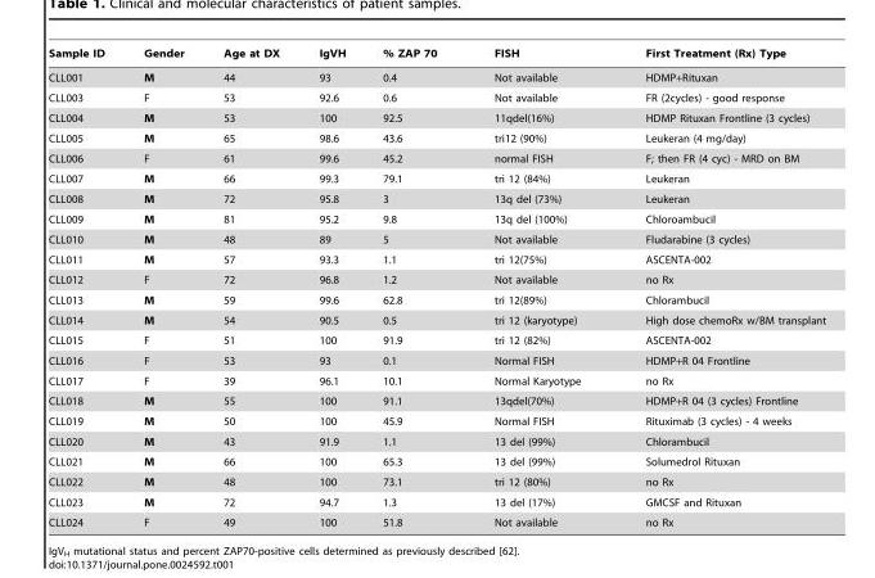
<table><thead><tr><td>Sample ID</td><td>Gender</td><td>Age at DX</td><td>IgVH</td><td>% ZAP 70</td><td>FISH</td><td>First Treatment (Rx) Type</td></tr></thead><tbody><tr><td>CLL001</td><td>M</td><td>44</td><td>93</td><td>0.4</td><td>Not available</td><td>HDMP+Rituxan</td></tr><tr><td>CLL003</td><td>F</td><td>53</td><td>92.6</td><td>0.6</td><td>Not available</td><td>FR (2cycles) - good response</td></tr><tr><td>CLL004</td><td>M</td><td>53</td><td>100</td><td>92.5</td><td>11qdel(16%)</td><td>HDMP Rituxan Frontline (3 cycles)</td></tr><tr><td>CLL005</td><td>M</td><td>65</td><td>98.6</td><td>43.6</td><td>tri12 (90%)</td><td>Leukeran (4 mg/day)</td></tr><tr><td>CLL006</td><td>F</td><td>61</td><td>99.6</td><td>45.2</td><td>normal FISH</td><td>F; then FR (4 cyc) - MRD on BM</td></tr><tr><td>CLL007</td><td>M</td><td>66</td><td>99.3</td><td>79.1</td><td>tri 12 (84%)</td><td>Leukeran</td></tr><tr><td>CLL008</td><td>M</td><td>72</td><td>95.8</td><td>3</td><td>13q del (73%)</td><td>Leukeran</td></tr><tr><td>CLL009</td><td>M</td><td>81</td><td>95.2</td><td>9.8</td><td>13q del (100%)</td><td>Chloroambucil</td></tr><tr><td>CLL010</td><td>M</td><td>48</td><td>89</td><td>5</td><td>Not available</td><td>Fludarabine (3 cycles)</td></tr><tr><td>CLL011</td><td>M</td><td>57</td><td>93.3</td><td>1.1</td><td>tri 12(75%)</td><td>ASCENTA-002</td></tr><tr><td>CLL012</td><td>F</td><td>72</td><td>96.8</td><td>1.2</td><td>Not available</td><td>no Rx</td></tr><tr><td>CLL013</td><td>M</td><td>59</td><td>99.6</td><td>62.8</td><td>tri 12(89%)</td><td>Chlorambucil</td></tr><tr><td>CLL014</td><td>M</td><td>54</td><td>90.5</td><td>0.5</td><td>tri 12 (karyotype)</td><td>High dose chemoRx w/BM transplant</td></tr><tr><td>CLL015</td><td>F</td><td>51</td><td>100</td><td>91.9</td><td>tri 12 (82%)</td><td>ASCENTA-002</td></tr><tr><td>CLL016</td><td>F</td><td>53</td><td>93</td><td>0.1</td><td>Normal FISH</td><td>HDMP+R 04 Frontline</td></tr><tr><td>CLL017</td><td>F</td><td>39</td><td>96.1</td><td>10.1</td><td>Normal Karyotype</td><td>no Rx</td></tr><tr><td>CLL018</td><td>M</td><td>55</td><td>100</td><td>91.1</td><td>13qdel(70%)</td><td>HDMP+R 04 (3 cycles) Frontline</td></tr><tr><td>CLL019</td><td>M</td><td>50</td><td>100</td><td>45.9</td><td>Normal FISH</td><td>Rituximab (3 cycles) - 4 weeks</td></tr><tr><td>CLL020</td><td>M</td><td>43</td><td>91.9</td><td>1.1</td><td>13 del (99%)</td><td>Chlorambucil</td></tr><tr><td>CLL021</td><td>M</td><td>66</td><td>100</td><td>65.3</td><td>13 del (99%)</td><td>Solumedrol Rituxan</td></tr><tr><td>CLL022</td><td>M</td><td>48</td><td>100</td><td>73.1</td><td>tri 12 (80%)</td><td>no Rx</td></tr><tr><td>CLL023</td><td>M</td><td>72</td><td>94.7</td><td>1.3</td><td>13 del (17%)</td><td>GMCSF and Rituxan</td></tr><tr><td>CLL024</td><td>F</td><td>49</td><td>100</td><td>51.8</td><td>Not available</td><td>no Rx</td></tr></tbody></table>